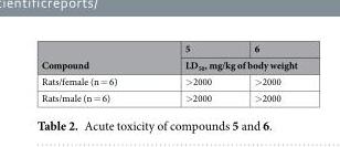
<table><thead><tr><td rowspan="2">Compound</td><td>5</td><td>6</td></tr><tr><td colspan="2">LD<sub>50</sub>, mg/kg of body weight</td></tr></thead><tbody><tr><td>Rats/female (n = 6)</td><td>&gt;2000</td><td>&gt;2000</td></tr><tr><td>Rats/male (n = 6)</td><td>&gt;2000</td><td>&gt;2000</td></tr></tbody></table>